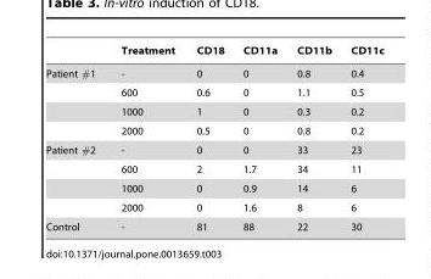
<table><thead><tr><td></td><td>Treatment</td><td>CD18</td><td>CD11a</td><td>CD11b</td><td>CD11c</td></tr></thead><tbody><tr><td rowspan="4">Patient #1</td><td>-</td><td>0</td><td>0</td><td>0.8</td><td>0.4</td></tr><tr><td>600</td><td>0.6</td><td>0</td><td>1.1</td><td>0.5</td></tr><tr><td>1000</td><td>1</td><td>0</td><td>0.3</td><td>0.2</td></tr><tr><td>2000</td><td>0.5</td><td>0</td><td>0.8</td><td>0.2</td></tr><tr><td rowspan="4">Patient #2</td><td>-</td><td>0</td><td>0</td><td>33</td><td>23</td></tr><tr><td>600</td><td>2</td><td>1.7</td><td>34</td><td>11</td></tr><tr><td>1000</td><td>0</td><td>0.9</td><td>14</td><td>6</td></tr><tr><td>2000</td><td>0</td><td>1.6</td><td>8</td><td>6</td></tr><tr><td>Control</td><td>-</td><td>81</td><td>88</td><td>22</td><td>30</td></tr></tbody></table>